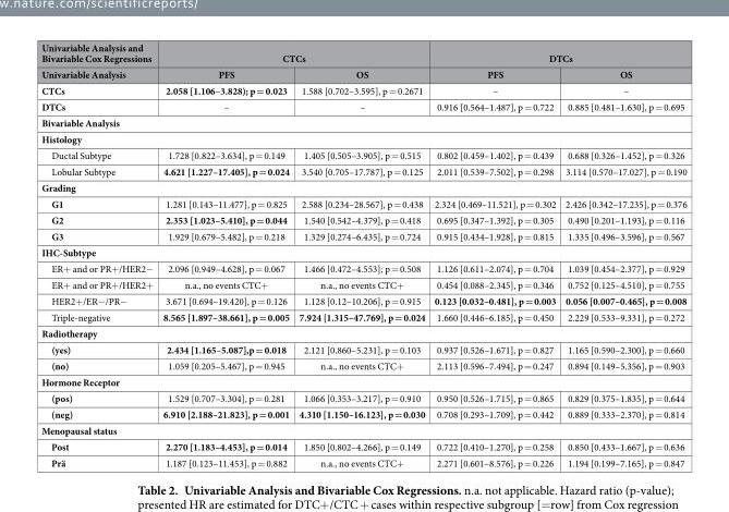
<table><thead><tr><td rowspan="2">Univariable Analysis and Bivariable Cox Regressions Univariable Analysis</td><td colspan="2">CTCs</td><td colspan="2">DTCs</td></tr><tr><td>PFS</td><td>OS</td><td>PFS</td><td>OS</td></tr></thead><tbody><tr><td>CTCs</td><td>2.058 [1.106–3.828); p = 0.023</td><td>1.588 [0.702–3.595], p = 0.2671</td><td>–</td><td>–</td></tr><tr><td>DTCs</td><td>–</td><td>–</td><td>0.916 [0.564–1.487], p = 0.722</td><td>0.885 [0.481–1.630], p = 0.695</td></tr><tr><td colspan="5">Bivariable Analysis</td></tr><tr><td colspan="5">Histology</td></tr><tr><td>Ductal Subtype</td><td>1.728 [0.822–3.634], p = 0.149</td><td>1.405 [0.505–3.905], p = 0.515</td><td>0.802 [0.459–1.402], p = 0.439</td><td>0.688 [0.326–1.452], p = 0.326</td></tr><tr><td>Lobular Subtype</td><td>4.621 [1.227–17.405], p = 0.024</td><td>3.540 [0.705–17.787], p = 0.125</td><td>2.011 [0.539–7.502], p = 0.298</td><td>3.114 [0.570–17.027], p = 0.190</td></tr><tr><td colspan="5">Grading</td></tr><tr><td>G1</td><td>1.281 [0.143–11.477], p = 0.825</td><td>2.588 [0.234–28.567], p = 0.438</td><td>2.324 [0.469–11.521], p = 0.302</td><td>2.426 [0.342–17.235], p = 0.376</td></tr><tr><td>G2</td><td>2.353 [1.023–5.410], p = 0.044</td><td>1.540 [0.542–4.379], p = 0.418</td><td>0.695 [0.347–1.392], p = 0.305</td><td>0.490 [0.201–1.193], p = 0.116</td></tr><tr><td>G3</td><td>1.929 [0.679–5.482], p = 0.218</td><td>1.329 [0.274–6.435], p = 0.724</td><td>0.915 [0.434–1.928], p = 0.815</td><td>1.335 [0.496–3.596], p = 0.567</td></tr><tr><td colspan="5">IHC-Subtype</td></tr><tr><td>ER+ and or PR+ /HER2−</td><td>2.096 [0.949–4.628], p = 0.067</td><td>1.466 [0.472–4.553]; p = 0.508</td><td>1.126 [0.611–2.074], p = 0.704</td><td>1.039 [0.454–2.377], p = 0.929</td></tr><tr><td>ER+ and or PR+ /HER2+</td><td>n.a., no events CTC+</td><td>n.a., no events CTC+</td><td>0.454 [0.088–2.345], p = 0.346</td><td>0.752 [0.125–4.510], p = 0.755</td></tr><tr><td>HER2+ /ER− /PR−</td><td>3.671 [0.694–19.420], p = 0.126</td><td>1.128 [0.12–10.206], p = 0.915</td><td>0.123 [0.032–0.481], p = 0.003</td><td>0.056 [0.007–0.465], p = 0.008</td></tr><tr><td>Triple-negative</td><td>8.565 [1.897–38.661], p = 0.005</td><td>7.924 [1.315–47.769], p = 0.024</td><td>1.660 [0.446–6.185], p = 0.450</td><td>2.229 [0.533–9.331], p = 0.272</td></tr><tr><td colspan="5">Radiotherapy</td></tr><tr><td>(yes)</td><td>2.434 [1.165–5.087],p = 0.018</td><td>2.121 [0.860–5.231], p = 0.103</td><td>0.937 [0.526–1.671], p = 0.827</td><td>1.165 [0.590–2.300], p = 0.660</td></tr><tr><td>(no)</td><td>1.059 [0.205–5.467], p = 0.945</td><td>n.a., no events CTC+</td><td>2.113 [0.596–7.494], p = 0.247</td><td>0.894 [0.149–5.356], p = 0.903</td></tr><tr><td colspan="5">Hormone Receptor</td></tr><tr><td>(pos)</td><td>1.529 [0.707–3.304], p = 0.281</td><td>1.066 [0.353–3.217], p = 0.910</td><td>0.950 [0.526–1.715], p = 0.865</td><td>0.829 [0.375–1.835], p = 0.644</td></tr><tr><td>(neg)</td><td>6.910 [2.188–21.823], p = 0.001</td><td>4.310 [1.150–16.123], p = 0.030</td><td>0.708 [0.293–1.709], p = 0.442</td><td>0.889 [0.333–2.370], p = 0.814</td></tr><tr><td colspan="5">Menopausal status</td></tr><tr><td>Post</td><td>2.270 [1.183–4.453], p = 0.014</td><td>1.850 [0.802–4.266], p = 0.149</td><td>0.722 [0.410–1.270], p = 0.258</td><td>0.850 [0.433–1.667], p = 0.636</td></tr><tr><td>Prä</td><td>1.187 [0.123–11.453], p = 0.882</td><td>n.a., no events CTC+</td><td>2.271 [0.601–8.576], p = 0.226</td><td>1.194 [0.199–7.165], p = 0.847</td></tr></tbody></table>